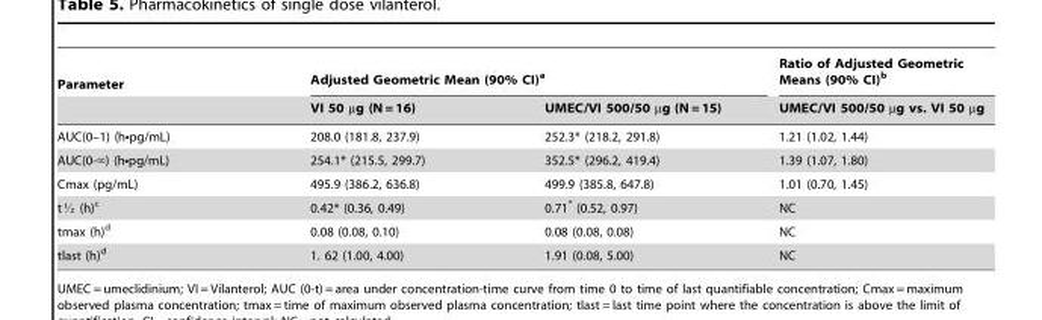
<table><thead><tr><td rowspan="2">Parameter</td><td colspan="2">Adjusted Geometric Mean (90% CI)<sup>a</sup></td><td rowspan="2">Ratio of Adjusted Geometric Means (90% CI)<sup>b</sup> UMEC/VI 500/50 µg vs. VI 50 µg</td></tr><tr><td>VI 50 µg (N = 16)</td><td>UMEC/VI 500/50 µg (N = 15)</td></tr></thead><tbody><tr><td>AUC(0–1) (h•pg/mL)</td><td>208.0 (181.8, 237.9)</td><td>252.3* (218.2, 291.8)</td><td>1.21 (1.02, 1.44)</td></tr><tr><td>AUC(0-‘) (hNpg/mL)</td><td>254.1* (215.5, 299.7)</td><td>352.5* (296.2, 419.4)</td><td>1.39 (1.07, 1.80)</td></tr><tr><td>Cmax (pg/mL)</td><td>495.9 (386.2, 636.8)</td><td>499.9 (385.8, 647.8)</td><td>1.01 (0.70, 1.45)</td></tr><tr><td>tK (h)c</td><td>0.42* (0.36, 0.49)</td><td>0.71* (0.52, 0.97)</td><td>NC</td></tr><tr><td>tmax (h)<sup>d</sup></td><td>0.08 (0.08, 0.10)</td><td>0.08 (0.08, 0.08)</td><td>NC</td></tr><tr><td>tlast (h)<sup>d</sup></td><td>1. 62 (1.00, 4.00)</td><td>1.91 (0.08, 5.00)</td><td>NC</td></tr></tbody></table>